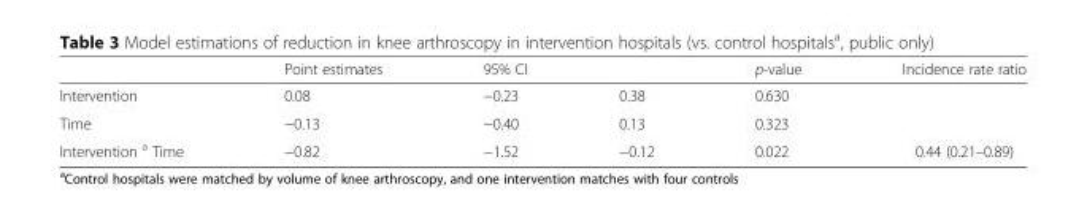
<table><thead><tr><td rowspan="2">Intervention</td><td rowspan="2">Point estimates 0.08</td><td colspan="2">95% CI</td><td rowspan="2">p-value 0.630</td><td rowspan="2">Incidence rate ratio</td></tr><tr><td>−0.23</td><td>0.38</td></tr></thead><tbody><tr><td>Time</td><td>−0.13</td><td>−0.40</td><td>0.13</td><td>0.323</td><td></td></tr><tr><td>Intervention <sup>a</sup> Time</td><td>−0.82</td><td>−1.52</td><td>−0.12</td><td>0.022</td><td>0.44 (0.21–0.89)</td></tr></tbody></table>